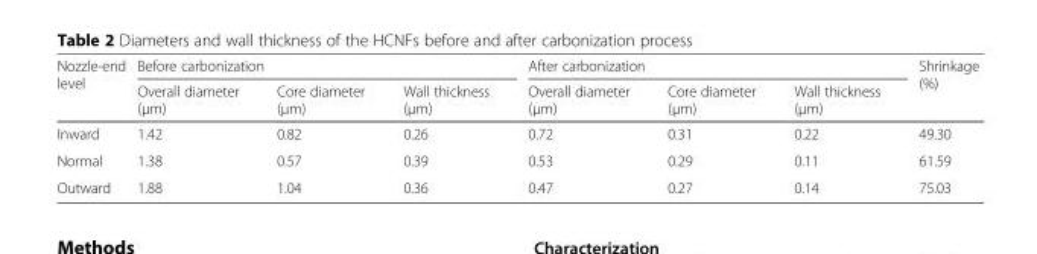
<table><thead><tr><td rowspan="2">Nozzle-end level</td><td colspan="3">Before carbonization</td><td colspan="3">After carbonization</td><td rowspan="2">Shrinkage (%)</td></tr><tr><td>Overall diameter (μm)</td><td>Core diameter (μm)</td><td>Wall thickness (μm)</td><td>Overall diameter (μm)</td><td>Core diameter (μm)</td><td>Wall thickness (μm)</td></tr></thead><tbody><tr><td>Inward</td><td>1.42</td><td>0.82</td><td>0.26</td><td>0.72</td><td>0.31</td><td>0.22</td><td>49.30</td></tr><tr><td>Normal</td><td>1.38</td><td>0.57</td><td>0.39</td><td>0.53</td><td>0.29</td><td>0.11</td><td>61.59</td></tr><tr><td>Outward</td><td>1.88</td><td>1.04</td><td>0.36</td><td>0.47</td><td>0.27</td><td>0.14</td><td>75.03</td></tr></tbody></table>